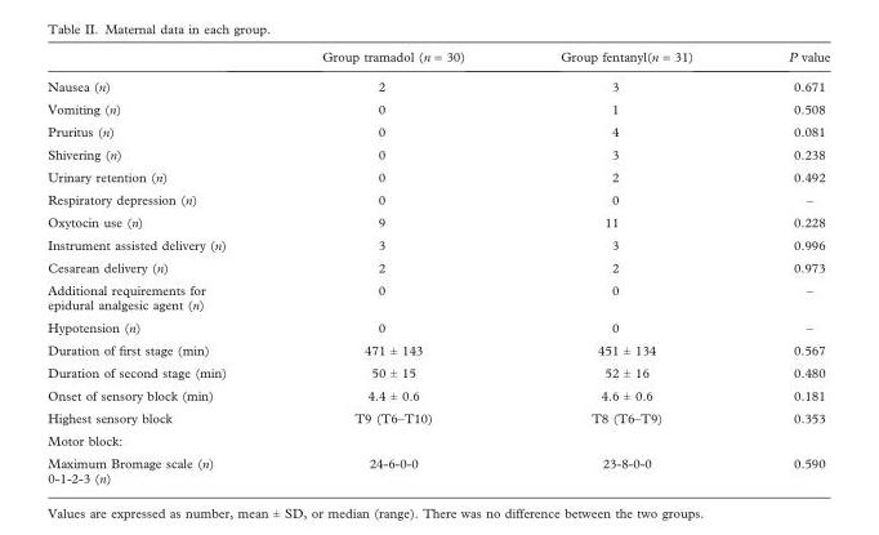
<table><thead><tr><td></td><td>Group tramadol (n = 30)</td><td>Group fentanyl(n = 31)</td><td>P value</td></tr></thead><tbody><tr><td>Nausea (n)</td><td>2</td><td>3</td><td>0.671</td></tr><tr><td>Vomiting (n)</td><td>0</td><td>1</td><td>0.508</td></tr><tr><td>Pruritus (n)</td><td>0</td><td>4</td><td>0.081</td></tr><tr><td>Shivering (n)</td><td>0</td><td>3</td><td>0.238</td></tr><tr><td>Urinary retention (n)</td><td>0</td><td>2</td><td>0.492</td></tr><tr><td>Respiratory depression (n)</td><td>0</td><td>0</td><td>–</td></tr><tr><td>Oxytocin use (n)</td><td>9</td><td>11</td><td>0.228</td></tr><tr><td>Instrument assisted delivery (n)</td><td>3</td><td>3</td><td>0.996</td></tr><tr><td>Cesarean delivery (n)</td><td>2</td><td>2</td><td>0.973</td></tr><tr><td>Additional requirements for epidural analgesic agent (n)</td><td>0</td><td>0</td><td>–</td></tr><tr><td>Hypotension (n)</td><td>0</td><td>0</td><td>–</td></tr><tr><td>Duration of first stage (min)</td><td>471 ± 143</td><td>451 ± 134</td><td>0.567</td></tr><tr><td>Duration of second stage (min)</td><td>50 ± 15</td><td>52 ± 16</td><td>0.480</td></tr><tr><td>Onset of sensory block (min)</td><td>4.4 ± 0.6</td><td>4.6 ± 0.6</td><td>0.181</td></tr><tr><td>Highest sensory block</td><td>T9 (T6–T10)</td><td>T8 (T6–T9)</td><td>0.353</td></tr><tr><td colspan="4">Motor block:</td></tr><tr><td>Maximum Bromage scale (n) 0-1-2-3 (n)</td><td>24-6-0-0</td><td>23-8-0-0</td><td>0.590</td></tr></tbody></table>